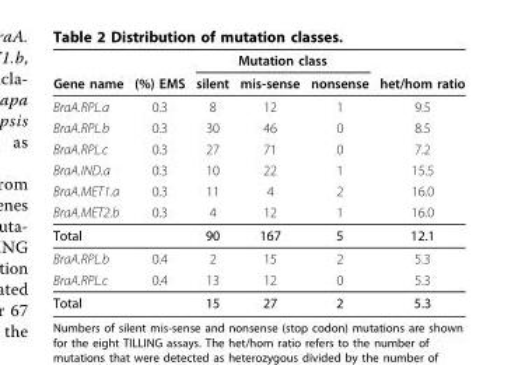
<table><thead><tr><td rowspan="2">Gene name</td><td rowspan="2">(%) EMS</td><td colspan="3">Mutation class</td><td rowspan="2">het/hom ratio</td></tr><tr><td>silent</td><td>mis-sense</td><td>nonsense</td></tr></thead><tbody><tr><td>BraA.RPL.a</td><td>0.3</td><td>8</td><td>12</td><td>1</td><td>9.5</td></tr><tr><td>BraA.RPL.b</td><td>0.3</td><td>30</td><td>46</td><td>0</td><td>8.5</td></tr><tr><td>BraA.RPL.c</td><td>0.3</td><td>27</td><td>71</td><td>0</td><td>7.2</td></tr><tr><td>BraA.IND.a</td><td>0.3</td><td>10</td><td>22</td><td>1</td><td>15.5</td></tr><tr><td>BraA.MET1.a</td><td>0.3</td><td>11</td><td>4</td><td>2</td><td>16.0</td></tr><tr><td>BraA.MET2.b</td><td>0.3</td><td>4</td><td>12</td><td>1</td><td>16.0</td></tr><tr><td>Total</td><td></td><td>90</td><td>167</td><td>5</td><td>12.1</td></tr><tr><td>BraA.RPL.b</td><td>0.4</td><td>2</td><td>15</td><td>2</td><td>5.3</td></tr><tr><td>BraA.RPL.c</td><td>0.4</td><td>13</td><td>12</td><td>0</td><td>5.3</td></tr><tr><td>Total</td><td></td><td>15</td><td>27</td><td>2</td><td>5.3</td></tr></tbody></table>